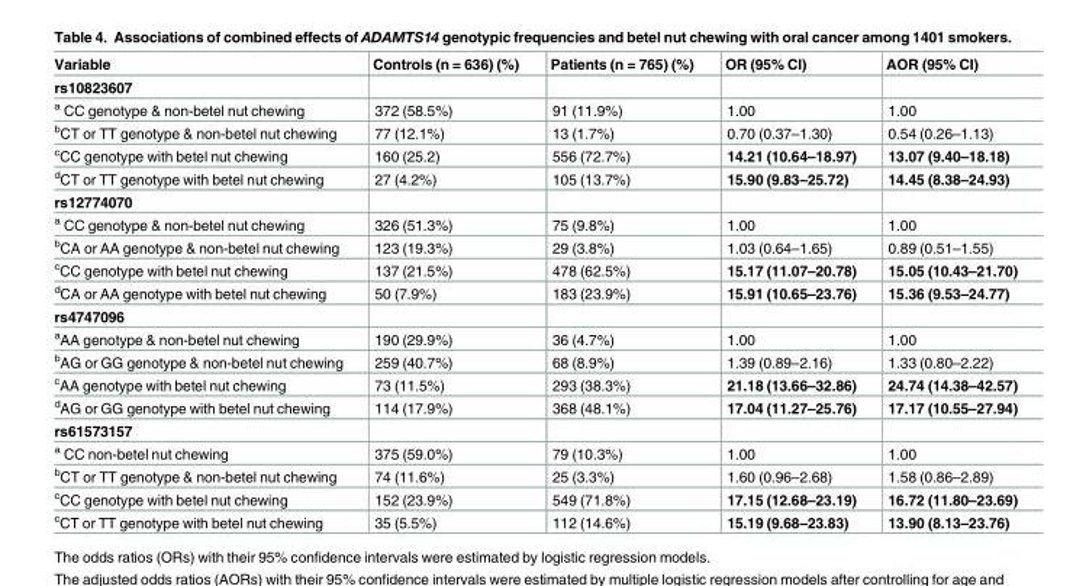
<table><thead><tr><td>Variable</td><td>Controls (n = 636) (%)</td><td>Patients (n = 765) (%)</td><td>OR (95% CI)</td><td>AOR (95% CI)</td></tr></thead><tbody><tr><td colspan="5">rs10823607</td></tr><tr><td><sup>a</sup> CC genotype &amp; non-betel nut chewing</td><td>372 (58.5%)</td><td>91 (11.9%)</td><td>1.00</td><td>1.00</td></tr><tr><td><sup>b</sup>CT or TT genotype &amp; non-betel nut chewing</td><td>77 (12.1%)</td><td>13 (1.7%)</td><td>0.70 (0.37–1.30)</td><td>0.54 (0.26–1.13)</td></tr><tr><td><sup>c</sup>CC genotype with betel nut chewing</td><td>160 (25.2)</td><td>556 (72.7%)</td><td>14.21 (10.64–18.97)</td><td>13.07 (9.40–18.18)</td></tr><tr><td><sup>d</sup>CT or TT genotype with betel nut chewing</td><td>27 (4.2%)</td><td>105 (13.7%)</td><td>15.90 (9.83–25.72)</td><td>14.45 (8.38–24.93)</td></tr><tr><td colspan="5">rs12774070</td></tr><tr><td><sup>a</sup> CC genotype &amp; non-betel nut chewing</td><td>326 (51.3%)</td><td>75 (9.8%)</td><td>1.00</td><td>1.00</td></tr><tr><td><sup>b</sup>CA or AA genotype &amp; non-betel nut chewing</td><td>123 (19.3%)</td><td>29 (3.8%)</td><td>1.03 (0.64–1.65)</td><td>0.89 (0.51–1.55)</td></tr><tr><td><sup>c</sup>CC genotype with betel nut chewing</td><td>137 (21.5%)</td><td>478 (62.5%)</td><td>15.17 (11.07–20.78)</td><td>15.05 (10.43–21.70)</td></tr><tr><td><sup>d</sup>CA or AA genotype with betel nut chewing</td><td>50 (7.9%)</td><td>183 (23.9%)</td><td>15.91 (10.65–23.76)</td><td>15.36 (9.53–24.77)</td></tr><tr><td colspan="5">rs4747096</td></tr><tr><td><sup>a</sup>AA genotype &amp; non-betel nut chewing</td><td>190 (29.9%)</td><td>36 (4.7%)</td><td>1.00</td><td>1.00</td></tr><tr><td><sup>b</sup>AG or GG genotype &amp; non-betel nut chewing</td><td>259 (40.7%)</td><td>68 (8.9%)</td><td>1.39 (0.89–2.16)</td><td>1.33 (0.80–2.22)</td></tr><tr><td><sup>c</sup>AA genotype with betel nut chewing</td><td>73 (11.5%)</td><td>293 (38.3%)</td><td>21.18 (13.66–32.86)</td><td>24.74 (14.38–42.57)</td></tr><tr><td><sup>d</sup>AG or GG genotype with betel nut chewing</td><td>114 (17.9%)</td><td>368 (48.1%)</td><td>17.04 (11.27–25.76)</td><td>17.17 (10.55–27.94)</td></tr><tr><td colspan="5">rs61573157</td></tr><tr><td><sup>a</sup> CC non-betel nut chewing</td><td>375 (59.0%)</td><td>79 (10.3%)</td><td>1.00</td><td>1.00</td></tr><tr><td><sup>b</sup>CT or TT genotype &amp; non-betel nut chewing</td><td>74 (11.6%)</td><td>25 (3.3%)</td><td>1.60 (0.96–2.68)</td><td>1.58 (0.86–2.89)</td></tr><tr><td><sup>c</sup>CC genotype with betel nut chewing</td><td>152 (23.9%)</td><td>549 (71.8%)</td><td>17.15 (12.68–23.19)</td><td>16.72 (11.80–23.69)</td></tr><tr><td><sup>c</sup>CT or TT genotype with betel nut chewing</td><td>35 (5.5%)</td><td>112 (14.6%)</td><td>15.19 (9.68–23.83)</td><td>13.90 (8.13–23.76)</td></tr></tbody></table>